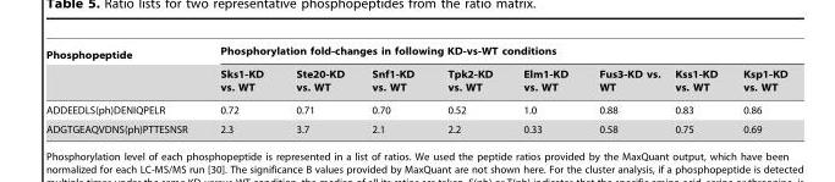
<table><thead><tr><td rowspan="2">Phosphopeptide</td><td colspan="8">Phosphorylation fold-changes in following KD-vs-WT conditions</td></tr><tr><td>Sks1-KD vs. WT</td><td>Ste20-KD vs. WT</td><td>Snf1-KD vs. WT</td><td>Tpk2-KD vs. WT</td><td>Elm1-KD vs. WT</td><td>Fus3-KD vs. WT</td><td>Kss1-KD vs. WT</td><td>Ksp1-KD vs. WT</td></tr></thead><tbody><tr><td>ADDEEDLS(ph)DENIQPELR</td><td>0.72</td><td>0.71</td><td>0.70</td><td>0.52</td><td>1.0</td><td>0.88</td><td>0.83</td><td>0.86</td></tr><tr><td>ADGTGEAQVDNS(ph)PTTESNSR</td><td>2.3</td><td>3.7</td><td>2.1</td><td>2.2</td><td>0.33</td><td>0.58</td><td>0.75</td><td>0.69</td></tr></tbody></table>